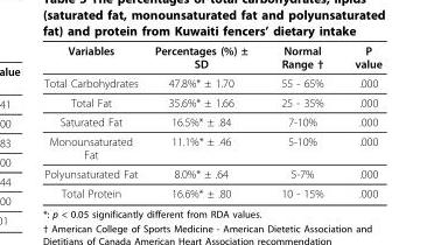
<table><thead><tr><td>Variables</td><td>Percentages (%) ± SD</td><td>Normal Range †</td><td>P value</td></tr></thead><tbody><tr><td>Total Carbohydrates</td><td>47.8%* ± 1.70</td><td>55 - 65%</td><td>.000</td></tr><tr><td>Total Fat</td><td>35.6%* ± 1.66</td><td>25 - 35%</td><td>.000</td></tr><tr><td>Saturated Fat</td><td>16.5%* ± .84</td><td>7-10%</td><td>.000</td></tr><tr><td>Monounsaturated Fat</td><td>11.1%* ± .46</td><td>5-10%</td><td>.000</td></tr><tr><td>Polyunsaturated Fat</td><td>8.0%* ± .64</td><td>5-7%</td><td>.000</td></tr><tr><td>Total Protein</td><td>16.6%* ± .80</td><td>10 - 15%</td><td>.000</td></tr></tbody></table>